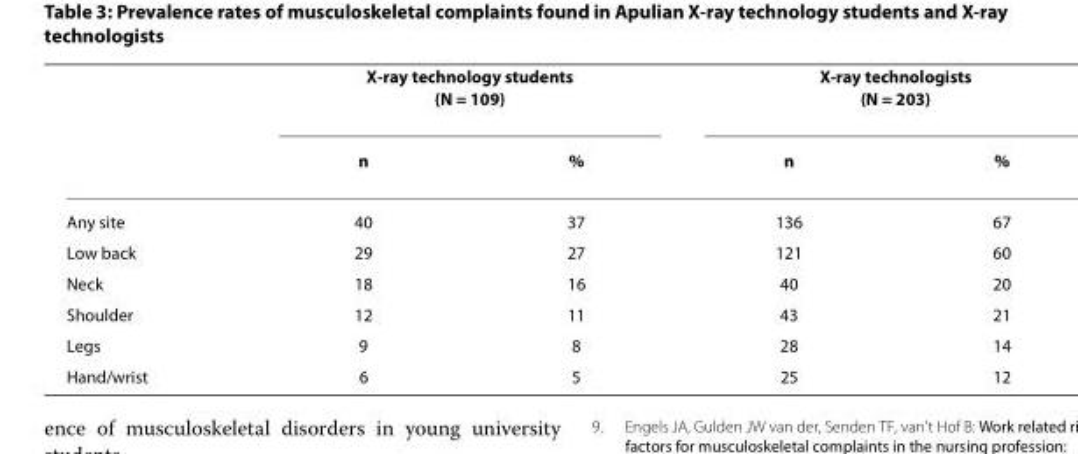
<table><thead><tr><td rowspan="2"></td><td colspan="2">X-ray technology students (N = 109)</td><td colspan="2">X-ray technologists (N = 203)</td></tr><tr><td>n</td><td>%</td><td>n</td><td>%</td></tr></thead><tbody><tr><td>Any site</td><td>40</td><td>37</td><td>136</td><td>67</td></tr><tr><td>Low back</td><td>29</td><td>27</td><td>121</td><td>60</td></tr><tr><td>Neck</td><td>18</td><td>16</td><td>40</td><td>20</td></tr><tr><td>Shoulder</td><td>12</td><td>11</td><td>43</td><td>21</td></tr><tr><td>Legs</td><td>9</td><td>8</td><td>28</td><td>14</td></tr><tr><td>Hand/wrist</td><td>6</td><td>5</td><td>25</td><td>12</td></tr></tbody></table>